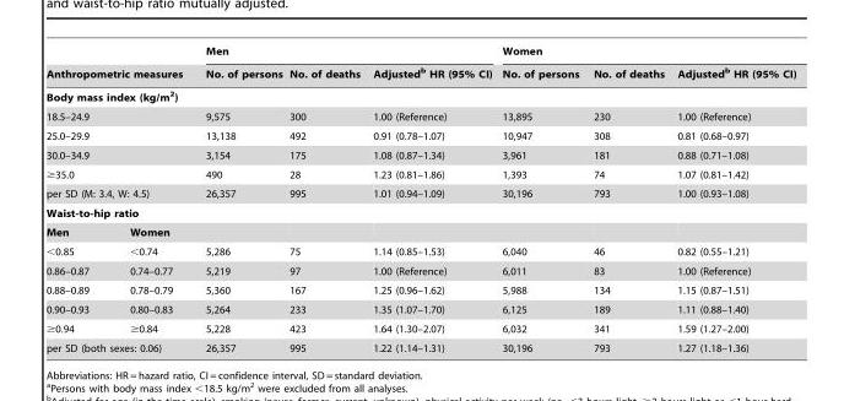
<table><thead><tr><td></td><td></td><td colspan="3">Men</td><td colspan="3">Women</td></tr><tr><td colspan="2">Anthropometric measures</td><td>No. of persons</td><td>No. of deaths</td><td>Adjusted<sup>b</sup> HR (95% CI)</td><td>No. of persons</td><td>No. of deaths</td><td>Adjusted<sup>b</sup> HR (95% CI)</td></tr></thead><tbody><tr><td colspan="8">Body mass index (kg/m<sup>2</sup>)</td></tr><tr><td colspan="2">18.5–24.9</td><td>9,575</td><td>300</td><td>1.00 (Reference)</td><td>13,895</td><td>230</td><td>1.00 (Reference)</td></tr><tr><td colspan="2">25.0–29.9</td><td>13,138</td><td>492</td><td>0.91 (0.78–1.07)</td><td>10,947</td><td>308</td><td>0.81 (0.68–0.97)</td></tr><tr><td colspan="2">30.0–34.9</td><td>3,154</td><td>175</td><td>1.08 (0.87–1.34)</td><td>3,961</td><td>181</td><td>0.88 (0.71–1.08)</td></tr><tr><td colspan="2">≥35.0</td><td>490</td><td>28</td><td>1.23 (0.81–1.86)</td><td>1,393</td><td>74</td><td>1.07 (0.81–1.42)</td></tr><tr><td colspan="2">per SD (M: 3.4, W: 4.5)</td><td>26,357</td><td>995</td><td>1.01 (0.94–1.09)</td><td>30,196</td><td>793</td><td>1.00 (0.93–1.08)</td></tr><tr><td colspan="8">Waist-to-hip ratio</td></tr><tr><td>Men</td><td>Women</td><td></td><td></td><td></td><td></td><td></td><td></td></tr><tr><td>&lt;0.85</td><td>&lt;0.74</td><td>5,286</td><td>75</td><td>1.14 (0.85–1.53)</td><td>6,040</td><td>46</td><td>0.82 (0.55–1.21)</td></tr><tr><td>0.86–0.87</td><td>0.74–0.77</td><td>5,219</td><td>97</td><td>1.00 (Reference)</td><td>6,011</td><td>83</td><td>1.00 (Reference)</td></tr><tr><td>0.88–0.89</td><td>0.78–0.79</td><td>5,360</td><td>167</td><td>1.25 (0.96–1.62)</td><td>5,988</td><td>134</td><td>1.15 (0.87–1.51)</td></tr><tr><td>0.90–0.93</td><td>0.80–0.83</td><td>5,264</td><td>233</td><td>1.35 (1.07–1.70)</td><td>6,125</td><td>189</td><td>1.11 (0.88–1.40)</td></tr><tr><td>≥0.94</td><td>≥0.84</td><td>5,228</td><td>423</td><td>1.64 (1.30–2.07)</td><td>6,032</td><td>341</td><td>1.59 (1.27–2.00)</td></tr><tr><td colspan="2">per SD (both sexes: 0.06)</td><td>26,357</td><td>995</td><td>1.22 (1.14–1.31)</td><td>30,196</td><td>793</td><td>1.27 (1.18–1.36)</td></tr></tbody></table>